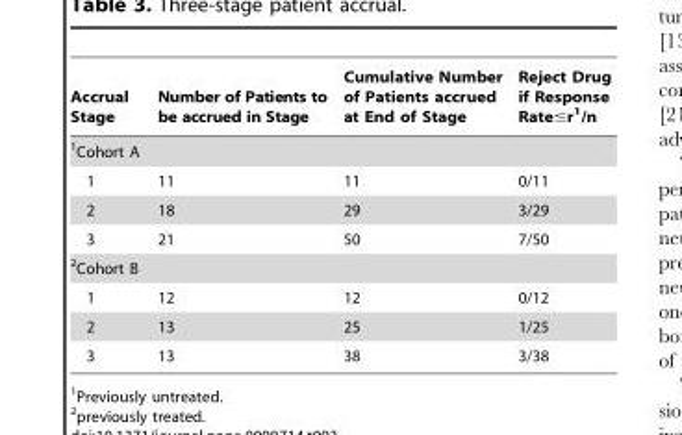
<table><thead><tr><td>Accrual Stage</td><td>Number of Patients to be accrued in Stage</td><td>Cumulative Number of Patients accrued at End of Stage</td><td>Reject Drug if Response Rate≤r<sup>1</sup>/n</td></tr></thead><tbody><tr><td colspan="4">1Cohort A</td></tr><tr><td>1</td><td>11</td><td>11</td><td>0/11</td></tr><tr><td>2</td><td>18</td><td>29</td><td>3/29</td></tr><tr><td>3</td><td>21</td><td>50</td><td>7/50</td></tr><tr><td colspan="4">2Cohort B</td></tr><tr><td>1</td><td>12</td><td>12</td><td>0/12</td></tr><tr><td>2</td><td>13</td><td>25</td><td>1/25</td></tr><tr><td>3</td><td>13</td><td>38</td><td>3/38</td></tr></tbody></table>